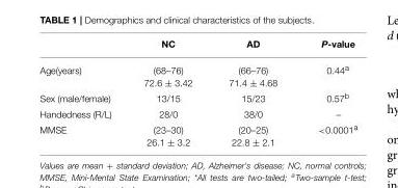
<table><thead><tr><td></td><td>NC</td><td>AD</td><td>P-value</td></tr></thead><tbody><tr><td>Age(years)</td><td>(68–76) 72.6 ± 3.42</td><td>(66–76) 71.4 ± 4.68</td><td>0.44<sup>a</sup></td></tr><tr><td>Sex (male/female)</td><td>13/15</td><td>15/23</td><td>0.57<sup>b</sup></td></tr><tr><td>Handedness (R/L)</td><td>28/0</td><td>38/0</td><td>–</td></tr><tr><td>MMSE</td><td>(23–30) 26.1 ± 3.2</td><td>(20–25) 22.8 ± 2.1</td><td>&lt;0.0001<sup>a</sup></td></tr></tbody></table>